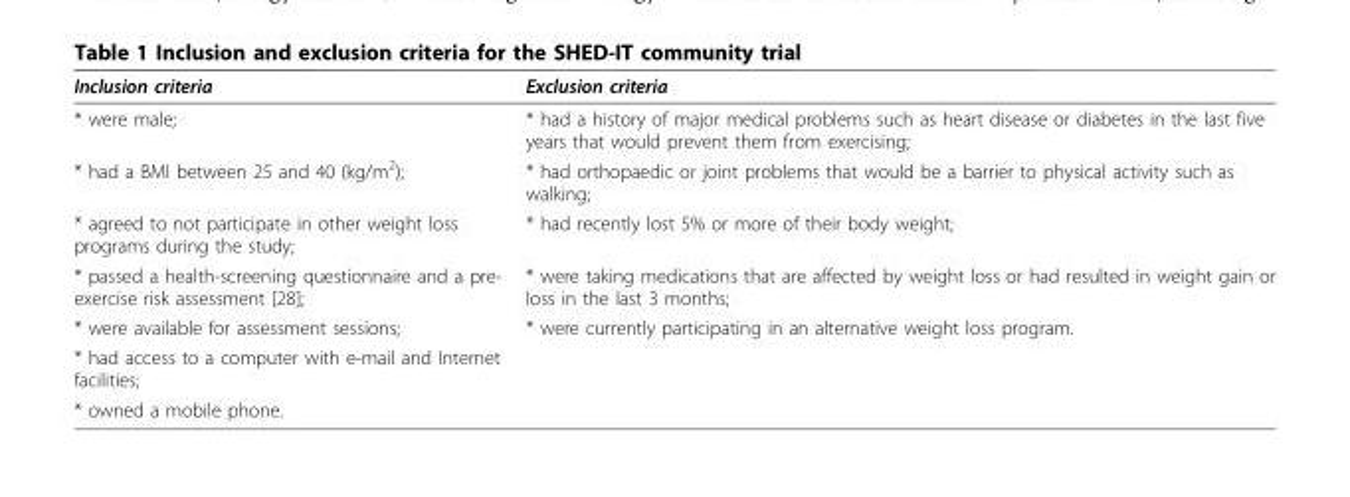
<table><thead><tr><td>Inclusion criteria</td><td>Exclusion criteria</td></tr></thead><tbody><tr><td>* were male;</td><td>* had a history of major medical problems such as heart disease or diabetes in the last five years that would prevent them from exercising;</td></tr><tr><td>* had a BMI between 25 and 40 (kg/m<sup>2</sup>);</td><td>* had orthopaedic or joint problems that would be a barrier to physical activity such as walking;</td></tr><tr><td>* agreed to not participate in other weight loss programs during the study;</td><td>* had recently lost 5% or more of their body weight;</td></tr><tr><td>* passed a health-screening questionnaire and a pre- exercise risk assessment [28];</td><td>* were taking medications that are affected by weight loss or had resulted in weight gain or loss in the last 3 months;</td></tr><tr><td>* were available for assessment sessions;</td><td>* were currently participating in an alternative weight loss program.</td></tr><tr><td colspan="2">* had access to a computer with e-mail and Internet facilities;</td></tr><tr><td>* owned a mobile phone.</td><td></td></tr></tbody></table>